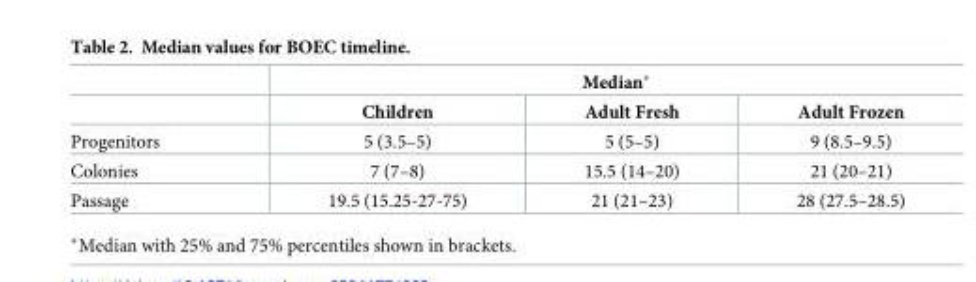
<table><thead><tr><td rowspan="2"></td><td colspan="3">Median*</td></tr><tr><td>Children</td><td>Adult Fresh</td><td>Adult Frozen</td></tr></thead><tbody><tr><td>Progenitors</td><td>5 (3.5–5)</td><td>5 (5–5)</td><td>9 (8.5–9.5)</td></tr><tr><td>Colonies</td><td>7 (7–8)</td><td>15.5 (14–20)</td><td>21 (20–21)</td></tr><tr><td>Passage</td><td>19.5 (15.25-27-75)</td><td>21 (21–23)</td><td>28 (27.5–28.5)</td></tr></tbody></table>